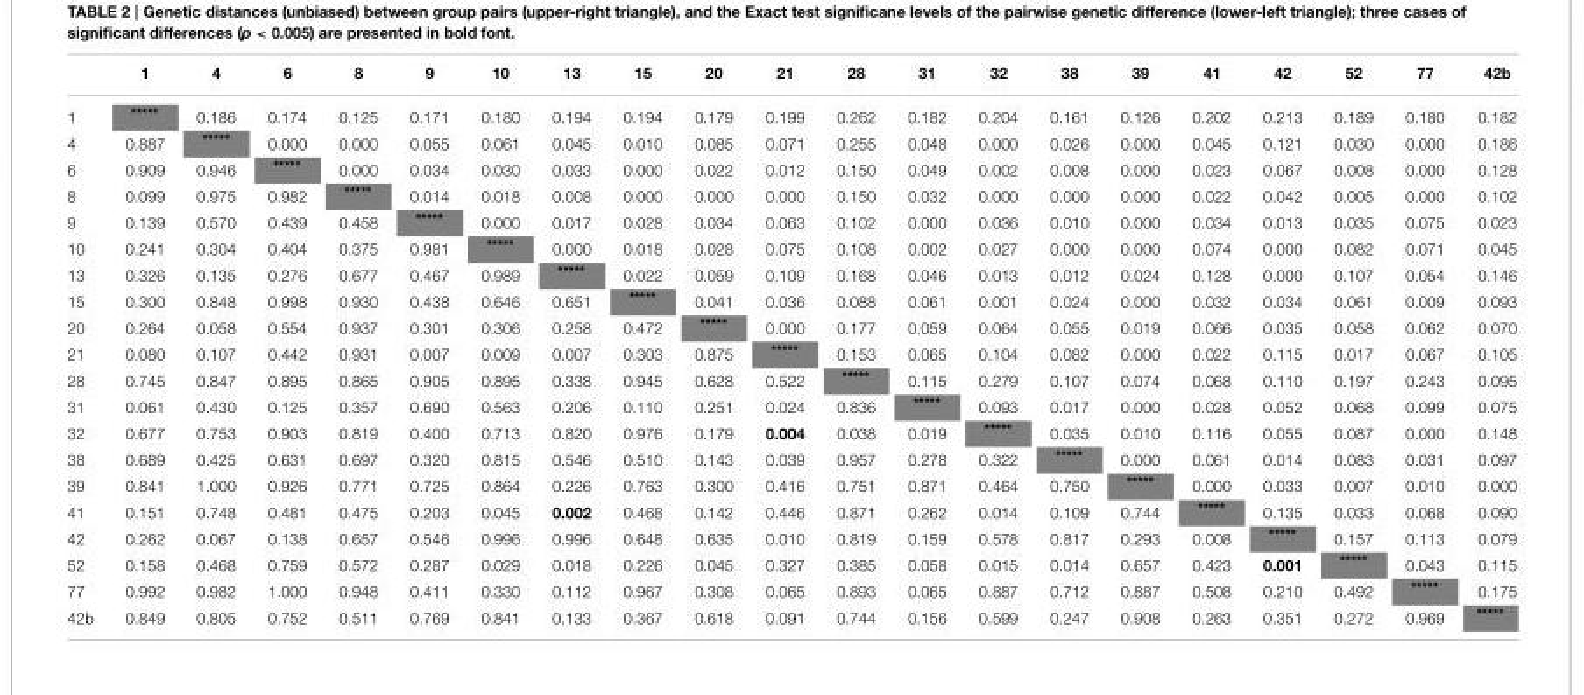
<table><thead><tr><td></td><td>1</td><td>4</td><td>6</td><td>8</td><td>9</td><td>10</td><td>13</td><td>15</td><td>20</td><td>21</td><td>28</td><td>31</td><td>32</td><td>38</td><td>39</td><td>41</td><td>42</td><td>52</td><td>77</td><td>42b</td></tr></thead><tbody><tr><td>1</td><td>*****</td><td>0.186</td><td>0.174</td><td>0.125</td><td>0.171</td><td>0.180</td><td>0.194</td><td>0.194</td><td>0.179</td><td>0.199</td><td>0.262</td><td>0.182</td><td>0.204</td><td>0.161</td><td>0.126</td><td>0.202</td><td>0.213</td><td>0.189</td><td>0.180</td><td>0.182</td></tr><tr><td>4</td><td>0.887</td><td>*****</td><td>0.000</td><td>0.000</td><td>0.055</td><td>0.061</td><td>0.045</td><td>0.010</td><td>0.085</td><td>0.071</td><td>0.255</td><td>0.048</td><td>0.000</td><td>0.026</td><td>0.000</td><td>0.045</td><td>0.121</td><td>0.030</td><td>0.000</td><td>0.186</td></tr><tr><td>6</td><td>0.909</td><td>0.946</td><td>*****</td><td>0.000</td><td>0.034</td><td>0.030</td><td>0.033</td><td>0.000</td><td>0.022</td><td>0.012</td><td>0.150</td><td>0.049</td><td>0.002</td><td>0.008</td><td>0.000</td><td>0.023</td><td>0.067</td><td>0.008</td><td>0.000</td><td>0.128</td></tr><tr><td>8</td><td>0.099</td><td>0.975</td><td>0.982</td><td>*****</td><td>0.014</td><td>0.018</td><td>0.008</td><td>0.000</td><td>0.000</td><td>0.000</td><td>0.150</td><td>0.032</td><td>0.000</td><td>0.000</td><td>0.000</td><td>0.022</td><td>0.042</td><td>0.005</td><td>0.000</td><td>0.102</td></tr><tr><td>9</td><td>0.139</td><td>0.570</td><td>0.439</td><td>0.458</td><td>*****</td><td>0.000</td><td>0.017</td><td>0.028</td><td>0.034</td><td>0.063</td><td>0.102</td><td>0.000</td><td>0.036</td><td>0.010</td><td>0.000</td><td>0.034</td><td>0.013</td><td>0.035</td><td>0.075</td><td>0.023</td></tr><tr><td>10</td><td>0.241</td><td>0.304</td><td>0.404</td><td>0.375</td><td>0.981</td><td>*****</td><td>0.000</td><td>0.018</td><td>0.028</td><td>0.075</td><td>0.108</td><td>0.002</td><td>0.027</td><td>0.000</td><td>0.000</td><td>0.074</td><td>0.000</td><td>0.082</td><td>0.071</td><td>0.045</td></tr><tr><td>13</td><td>0.326</td><td>0.135</td><td>0.276</td><td>0.677</td><td>0.467</td><td>0.989</td><td>*****</td><td>0.022</td><td>0.059</td><td>0.109</td><td>0.168</td><td>0.046</td><td>0.013</td><td>0.012</td><td>0.024</td><td>0.128</td><td>0.000</td><td>0.107</td><td>0.054</td><td>0.146</td></tr><tr><td>15</td><td>0.300</td><td>0.848</td><td>0.998</td><td>0.930</td><td>0.438</td><td>0.646</td><td>0.651</td><td>*****</td><td>0.041</td><td>0.036</td><td>0.088</td><td>0.061</td><td>0.001</td><td>0.024</td><td>0.000</td><td>0.032</td><td>0.034</td><td>0.061</td><td>0.009</td><td>0.093</td></tr><tr><td>20</td><td>0.264</td><td>0.058</td><td>0.554</td><td>0.937</td><td>0.301</td><td>0.306</td><td>0.258</td><td>0.472</td><td>*****</td><td>0.000</td><td>0.177</td><td>0.059</td><td>0.064</td><td>0.055</td><td>0.019</td><td>0.066</td><td>0.035</td><td>0.058</td><td>0.062</td><td>0.070</td></tr><tr><td>21</td><td>0.080</td><td>0.107</td><td>0.442</td><td>0.931</td><td>0.007</td><td>0.009</td><td>0.007</td><td>0.303</td><td>0.875</td><td>*****</td><td>0.153</td><td>0.065</td><td>0.104</td><td>0.082</td><td>0.000</td><td>0.022</td><td>0.115</td><td>0.017</td><td>0.067</td><td>0.105</td></tr><tr><td>28</td><td>0.745</td><td>0.847</td><td>0.895</td><td>0.865</td><td>0.905</td><td>0.895</td><td>0.338</td><td>0.945</td><td>0.628</td><td>0.522</td><td>*****</td><td>0.115</td><td>0.279</td><td>0.107</td><td>0.074</td><td>0.068</td><td>0.110</td><td>0.197</td><td>0.243</td><td>0.095</td></tr><tr><td>31</td><td>0.061</td><td>0.430</td><td>0.125</td><td>0.357</td><td>0.690</td><td>0.563</td><td>0.206</td><td>0.110</td><td>0.251</td><td>0.024</td><td>0.836</td><td>*****</td><td>0.093</td><td>0.017</td><td>0.000</td><td>0.028</td><td>0.052</td><td>0.068</td><td>0.099</td><td>0.075</td></tr><tr><td>32</td><td>0.677</td><td>0.753</td><td>0.903</td><td>0.819</td><td>0.400</td><td>0.713</td><td>0.820</td><td>0.976</td><td>0.179</td><td>0.004</td><td>0.038</td><td>0.019</td><td>*****</td><td>0.035</td><td>0.010</td><td>0.116</td><td>0.055</td><td>0.087</td><td>0.000</td><td>0.148</td></tr><tr><td>38</td><td>0.689</td><td>0.425</td><td>0.631</td><td>0.697</td><td>0.320</td><td>0.815</td><td>0.546</td><td>0.510</td><td>0.143</td><td>0.039</td><td>0.957</td><td>0.278</td><td>0.322</td><td>*****</td><td>0.000</td><td>0.061</td><td>0.014</td><td>0.083</td><td>0.031</td><td>0.097</td></tr><tr><td>39</td><td>0.841</td><td>1.000</td><td>0.926</td><td>0.771</td><td>0.725</td><td>0.864</td><td>0.226</td><td>0.763</td><td>0.300</td><td>0.416</td><td>0.751</td><td>0.871</td><td>0.464</td><td>0.750</td><td>*****</td><td>0.000</td><td>0.033</td><td>0.007</td><td>0.010</td><td>0.000</td></tr><tr><td>41</td><td>0.151</td><td>0.748</td><td>0.481</td><td>0.475</td><td>0.203</td><td>0.045</td><td>0.002</td><td>0.468</td><td>0.142</td><td>0.446</td><td>0.871</td><td>0.262</td><td>0.014</td><td>0.109</td><td>0.744</td><td>*****</td><td>0.135</td><td>0.033</td><td>0.068</td><td>0.090</td></tr><tr><td>42</td><td>0.262</td><td>0.067</td><td>0.138</td><td>0.657</td><td>0.546</td><td>0.996</td><td>0.996</td><td>0.648</td><td>0.635</td><td>0.010</td><td>0.819</td><td>0.159</td><td>0.578</td><td>0.817</td><td>0.293</td><td>0.008</td><td>*****</td><td>0.157</td><td>0.113</td><td>0.079</td></tr><tr><td>52</td><td>0.158</td><td>0.468</td><td>0.759</td><td>0.572</td><td>0.287</td><td>0.029</td><td>0.018</td><td>0.226</td><td>0.045</td><td>0.327</td><td>0.385</td><td>0.058</td><td>0.015</td><td>0.014</td><td>0.657</td><td>0.423</td><td>0.001</td><td>*****</td><td>0.043</td><td>0.115</td></tr><tr><td>77</td><td>0.992</td><td>0.982</td><td>1.000</td><td>0.948</td><td>0.411</td><td>0.330</td><td>0.112</td><td>0.967</td><td>0.308</td><td>0.065</td><td>0.893</td><td>0.065</td><td>0.887</td><td>0.712</td><td>0.887</td><td>0.508</td><td>0.210</td><td>0.492</td><td>*****</td><td>0.175</td></tr><tr><td>42b</td><td>0.849</td><td>0.805</td><td>0.752</td><td>0.511</td><td>0.769</td><td>0.841</td><td>0.133</td><td>0.367</td><td>0.618</td><td>0.091</td><td>0.744</td><td>0.156</td><td>0.599</td><td>0.247</td><td>0.908</td><td>0.263</td><td>0.351</td><td>0.272</td><td>0.969</td><td>*****</td></tr></tbody></table>